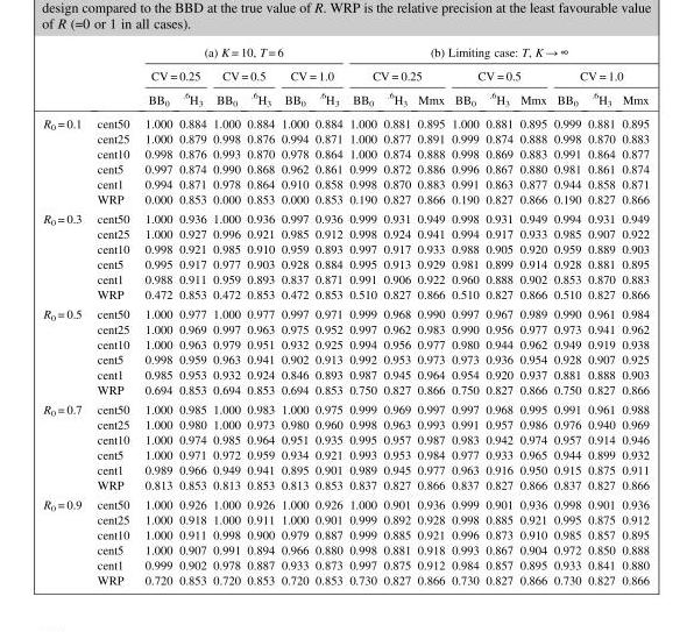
<table><thead><tr><td rowspan="3"></td><td rowspan="3"></td><td colspan="6">(a) K = 10, T = 6</td><td colspan="9">(b) Limiting case: T, K → ∞</td></tr><tr><td colspan="2">CV = 0.25</td><td colspan="2">CV = 0.5</td><td colspan="2">CV = 1.0</td><td colspan="3">CV = 0.25</td><td colspan="3">CV = 0.5</td><td colspan="3">CV = 1.0</td></tr><tr><td>BB<sub>0</sub></td><td><sup>.6</sup>H<sub>3</sub></td><td>BB<sub>0</sub></td><td><sup>.6</sup>H<sub>3</sub></td><td>BB<sub>0</sub></td><td><sup>.6</sup>H<sub>3</sub></td><td>BB<sub>0</sub></td><td><sup>.6</sup>H<sub>3</sub></td><td>Mmx</td><td>BB<sub>0</sub></td><td><sup>.6</sup>H<sub>3</sub></td><td>Mmx</td><td>BB<sub>0</sub></td><td><sup>.6</sup>H<sub>3</sub></td><td>Mmx</td></tr></thead><tbody><tr><td rowspan="6">R<sub>0</sub> = 0.1</td><td>cent50</td><td>1.000</td><td>0.884</td><td>1.000</td><td>0.884</td><td>1.000</td><td>0.884</td><td>1.000</td><td>0.881</td><td>0.895</td><td>1.000</td><td>0.881</td><td>0.895</td><td>0.999</td><td>0.881</td><td>0.895</td></tr><tr><td>cent25</td><td>1.000</td><td>0.879</td><td>0.998</td><td>0.876</td><td>0.994</td><td>0.871</td><td>1.000</td><td>0.877</td><td>0.891</td><td>0.999</td><td>0.874</td><td>0.888</td><td>0.998</td><td>0.870</td><td>0.883</td></tr><tr><td>cent10</td><td>0.998</td><td>0.876</td><td>0.993</td><td>0.870</td><td>0.978</td><td>0.864</td><td>1.000</td><td>0.874</td><td>0.888</td><td>0.998</td><td>0.869</td><td>0.883</td><td>0.991</td><td>0.864</td><td>0.877</td></tr><tr><td>cent5</td><td>0.997</td><td>0.874</td><td>0.990</td><td>0.868</td><td>0.962</td><td>0.861</td><td>0.999</td><td>0.872</td><td>0.886</td><td>0.996</td><td>0.867</td><td>0.880</td><td>0.981</td><td>0.861</td><td>0.874</td></tr><tr><td>cent1</td><td>0.994</td><td>0.871</td><td>0.978</td><td>0.864</td><td>0.910</td><td>0.858</td><td>0.998</td><td>0.870</td><td>0.883</td><td>0.991</td><td>0.863</td><td>0.877</td><td>0.944</td><td>0.858</td><td>0.871</td></tr><tr><td>WRP</td><td>0.000</td><td>0.853</td><td>0.000</td><td>0.853</td><td>0.000</td><td>0.853</td><td>0.190</td><td>0.827</td><td>0.866</td><td>0.190</td><td>0.827</td><td>0.866</td><td>0.190</td><td>0.827</td><td>0.866</td></tr><tr><td rowspan="6">R<sub>0</sub> = 0.3</td><td>cent50</td><td>1.000</td><td>0.936</td><td>1.000</td><td>0.936</td><td>0.997</td><td>0.936</td><td>0.999</td><td>0.931</td><td>0.949</td><td>0.998</td><td>0.931</td><td>0.949</td><td>0.994</td><td>0.931</td><td>0.949</td></tr><tr><td>cent25</td><td>1.000</td><td>0.927</td><td>0.996</td><td>0.921</td><td>0.985</td><td>0.912</td><td>0.998</td><td>0.924</td><td>0.941</td><td>0.994</td><td>0.917</td><td>0.933</td><td>0.985</td><td>0.907</td><td>0.922</td></tr><tr><td>cent10</td><td>0.998</td><td>0.921</td><td>0.985</td><td>0.910</td><td>0.959</td><td>0.893</td><td>0.997</td><td>0.917</td><td>0.933</td><td>0.988</td><td>0.905</td><td>0.920</td><td>0.959</td><td>0.889</td><td>0.903</td></tr><tr><td>cent5</td><td>0.995</td><td>0.917</td><td>0.977</td><td>0.903</td><td>0.928</td><td>0.884</td><td>0.995</td><td>0.913</td><td>0.929</td><td>0.981</td><td>0.899</td><td>0.914</td><td>0.928</td><td>0.881</td><td>0.895</td></tr><tr><td>cent1</td><td>0.988</td><td>0.911</td><td>0.959</td><td>0.893</td><td>0.837</td><td>0.871</td><td>0.991</td><td>0.906</td><td>0.922</td><td>0.960</td><td>0.888</td><td>0.902</td><td>0.853</td><td>0.870</td><td>0.883</td></tr><tr><td>WRP</td><td>0.472</td><td>0.853</td><td>0.472</td><td>0.853</td><td>0.472</td><td>0.853</td><td>0.510</td><td>0.827</td><td>0.866</td><td>0.510</td><td>0.827</td><td>0.866</td><td>0.510</td><td>0.827</td><td>0.866</td></tr><tr><td rowspan="6">R<sub>0</sub> = 0.5</td><td>cent50</td><td>1.000</td><td>0.977</td><td>1.000</td><td>0.977</td><td>0.997</td><td>0.971</td><td>0.999</td><td>0.968</td><td>0.990</td><td>0.997</td><td>0.967</td><td>0.989</td><td>0.990</td><td>0.961</td><td>0.984</td></tr><tr><td>cent25</td><td>1.000</td><td>0.969</td><td>0.997</td><td>0.963</td><td>0.975</td><td>0.952</td><td>0.997</td><td>0.962</td><td>0.983</td><td>0.990</td><td>0.956</td><td>0.977</td><td>0.973</td><td>0.941</td><td>0.962</td></tr><tr><td>cent10</td><td>1.000</td><td>0.963</td><td>0.979</td><td>0.951</td><td>0.932</td><td>0.925</td><td>0.994</td><td>0.956</td><td>0.977</td><td>0.980</td><td>0.944</td><td>0.962</td><td>0.949</td><td>0.919</td><td>0.938</td></tr><tr><td>cent5</td><td>0.998</td><td>0.959</td><td>0.963</td><td>0.941</td><td>0.902</td><td>0.913</td><td>0.992</td><td>0.953</td><td>0.973</td><td>0.973</td><td>0.936</td><td>0.954</td><td>0.928</td><td>0.907</td><td>0.925</td></tr><tr><td>cent1</td><td>0.985</td><td>0.953</td><td>0.932</td><td>0.924</td><td>0.846</td><td>0.893</td><td>0.987</td><td>0.945</td><td>0.964</td><td>0.954</td><td>0.920</td><td>0.937</td><td>0.881</td><td>0.888</td><td>0.903</td></tr><tr><td>WRP</td><td>0.694</td><td>0.853</td><td>0.694</td><td>0.853</td><td>0.694</td><td>0.853</td><td>0.750</td><td>0.827</td><td>0.866</td><td>0.750</td><td>0.827</td><td>0.866</td><td>0.750</td><td>0.827</td><td>0.866</td></tr><tr><td rowspan="6">R<sub>0</sub> = 0.7</td><td>cent50</td><td>1.000</td><td>0.985</td><td>1.000</td><td>0.983</td><td>1.000</td><td>0.975</td><td>0.999</td><td>0.969</td><td>0.997</td><td>0.997</td><td>0.968</td><td>0.995</td><td>0.991</td><td>0.961</td><td>0.988</td></tr><tr><td>cent25</td><td>1.000</td><td>0.980</td><td>1.000</td><td>0.973</td><td>0.980</td><td>0.960</td><td>0.998</td><td>0.963</td><td>0.993</td><td>0.991</td><td>0.957</td><td>0.986</td><td>0.976</td><td>0.940</td><td>0.969</td></tr><tr><td>cent10</td><td>1.000</td><td>0.974</td><td>0.985</td><td>0.964</td><td>0.951</td><td>0.935</td><td>0.995</td><td>0.957</td><td>0.987</td><td>0.983</td><td>0.942</td><td>0.974</td><td>0.957</td><td>0.914</td><td>0.946</td></tr><tr><td>cent5</td><td>1.000</td><td>0.971</td><td>0.972</td><td>0.959</td><td>0.934</td><td>0.921</td><td>0.993</td><td>0.953</td><td>0.984</td><td>0.977</td><td>0.933</td><td>0.965</td><td>0.944</td><td>0.899</td><td>0.932</td></tr><tr><td>cent1</td><td>0.989</td><td>0.966</td><td>0.949</td><td>0.941</td><td>0.895</td><td>0.901</td><td>0.989</td><td>0.945</td><td>0.977</td><td>0.963</td><td>0.916</td><td>0.950</td><td>0.915</td><td>0.875</td><td>0.911</td></tr><tr><td>WRP</td><td>0.813</td><td>0.853</td><td>0.813</td><td>0.853</td><td>0.813</td><td>0.853</td><td>0.837</td><td>0.827</td><td>0.866</td><td>0.837</td><td>0.827</td><td>0.866</td><td>0.837</td><td>0.827</td><td>0.866</td></tr><tr><td rowspan="6">R<sub>0</sub> = 0.9</td><td>cent50</td><td>1.000</td><td>0.926</td><td>1.000</td><td>0.926</td><td>1.000</td><td>0.926</td><td>1.000</td><td>0.901</td><td>0.936</td><td>0.999</td><td>0.901</td><td>0.936</td><td>0.998</td><td>0.901</td><td>0.936</td></tr><tr><td>cent25</td><td>1.000</td><td>0.918</td><td>1.000</td><td>0.911</td><td>1.000</td><td>0.901</td><td>0.999</td><td>0.892</td><td>0.928</td><td>0.998</td><td>0.885</td><td>0.921</td><td>0.995</td><td>0.875</td><td>0.912</td></tr><tr><td>cent10</td><td>1.000</td><td>0.911</td><td>0.998</td><td>0.900</td><td>0.979</td><td>0.887</td><td>0.999</td><td>0.885</td><td>0.921</td><td>0.996</td><td>0.873</td><td>0.910</td><td>0.985</td><td>0.857</td><td>0.895</td></tr><tr><td>cent5</td><td>1.000</td><td>0.907</td><td>0.991</td><td>0.894</td><td>0.966</td><td>0.880</td><td>0.998</td><td>0.881</td><td>0.918</td><td>0.993</td><td>0.867</td><td>0.904</td><td>0.972</td><td>0.850</td><td>0.888</td></tr><tr><td>cent1</td><td>0.999</td><td>0.902</td><td>0.978</td><td>0.887</td><td>0.933</td><td>0.873</td><td>0.997</td><td>0.875</td><td>0.912</td><td>0.984</td><td>0.857</td><td>0.895</td><td>0.933</td><td>0.841</td><td>0.880</td></tr><tr><td>WRP</td><td>0.720</td><td>0.853</td><td>0.720</td><td>0.853</td><td>0.720</td><td>0.853</td><td>0.730</td><td>0.827</td><td>0.866</td><td>0.730</td><td>0.827</td><td>0.866</td><td>0.730</td><td>0.827</td><td>0.866</td></tr></tbody></table>